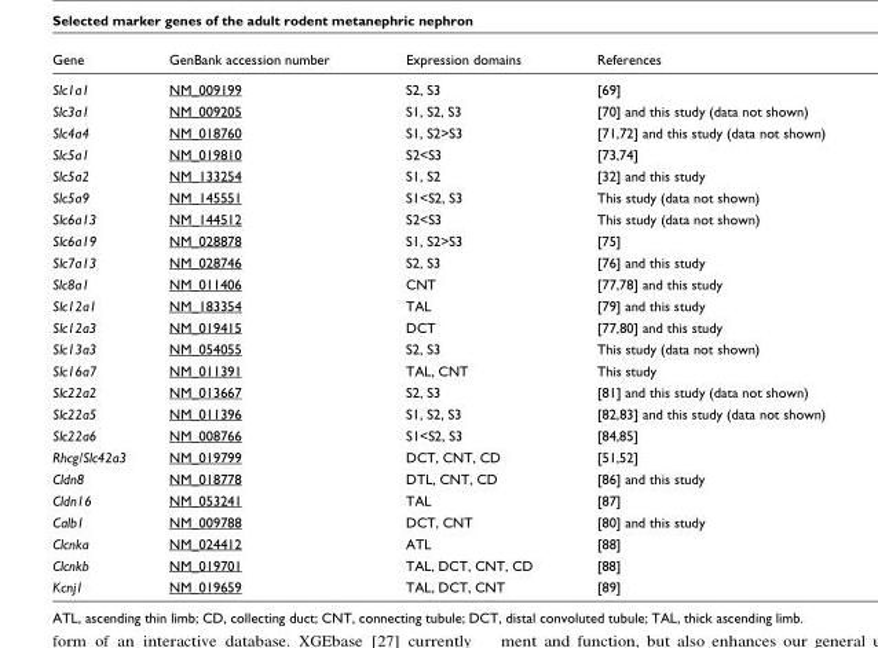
<table><thead><tr><td>Gene</td><td>GenBank accession number</td><td>Expression domains</td><td>References</td></tr></thead><tbody><tr><td>Slc1a1</td><td>NM_009199</td><td>S2, S3</td><td>[69]</td></tr><tr><td>Slc3a1</td><td>NM_009205</td><td>S1, S2, S3</td><td>[70] and this study (data not shown)</td></tr><tr><td>Slc4a4</td><td>NM_018760</td><td>S1, S2&gt;S3</td><td>[71,72] and this study (data not shown)</td></tr><tr><td>Slc5a1</td><td>NM_019810</td><td>S2&lt;S3</td><td>[73,74]</td></tr><tr><td>Slc5a2</td><td>NM_133254</td><td>S1, S2</td><td>[32] and this study</td></tr><tr><td>Slc5a9</td><td>NM_145551</td><td>S1&lt;S2, S3</td><td>This study (data not shown)</td></tr><tr><td>Slc6a13</td><td>NM_144512</td><td>S2&lt;S3</td><td>This study (data not shown)</td></tr><tr><td>Slc6a19</td><td>NM_028878</td><td>S1, S2&gt;S3</td><td>[75]</td></tr><tr><td>Slc7a13</td><td>NM_028746</td><td>S2, S3</td><td>[76] and this study</td></tr><tr><td>Slc8a1</td><td>NM_011406</td><td>CNT</td><td>[77,78] and this study</td></tr><tr><td>Slc12a1</td><td>NM_183354</td><td>TAL</td><td>[79] and this study</td></tr><tr><td>Slc12a3</td><td>NM_019415</td><td>DCT</td><td>[77,80] and this study</td></tr><tr><td>Slc13a3</td><td>NM_054055</td><td>S2, S3</td><td>This study (data not shown)</td></tr><tr><td>Slc16a7</td><td>NM_011391</td><td>TAL, CNT</td><td>This study</td></tr><tr><td>Slc22a2</td><td>NM_013667</td><td>S2, S3</td><td>[81] and this study (data not shown)</td></tr><tr><td>Slc22a5</td><td>NM_011396</td><td>S1, S2, S3</td><td>[82,83] and this study (data not shown)</td></tr><tr><td>Slc22a6</td><td>NM_008766</td><td>S1&lt;S2, S3</td><td>[84,85]</td></tr><tr><td>Rhcg/Slc42a3</td><td>NM_019799</td><td>DCT, CNT, CD</td><td>[51,52]</td></tr><tr><td>Cldn8</td><td>NM_018778</td><td>DTL, CNT, CD</td><td>[86] and this study</td></tr><tr><td>Cldn16</td><td>NM_053241</td><td>TAL</td><td>[87]</td></tr><tr><td>Calb1</td><td>NM_009788</td><td>DCT, CNT</td><td>[80] and this study</td></tr><tr><td>Clcnka</td><td>NM_024412</td><td>ATL</td><td>[88]</td></tr><tr><td>Clcnkb</td><td>NM_019701</td><td>TAL, DCT, CNT, CD</td><td>[88]</td></tr><tr><td>Kcnj1</td><td>NM_019659</td><td>TAL, DCT, CNT</td><td>[89]</td></tr></tbody></table>